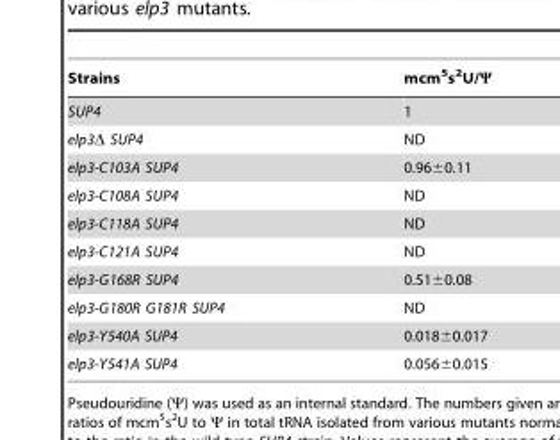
<table><thead><tr><td>Strains</td><td>mcm<sup>5</sup>s<sup>2</sup>U/Ψ</td></tr></thead><tbody><tr><td>SUP4</td><td>1</td></tr><tr><td>elp3Δ SUP4</td><td>ND</td></tr><tr><td>elp3-C103A SUP4</td><td>0.96±0.11</td></tr><tr><td>elp3-C108A SUP4</td><td>ND</td></tr><tr><td>elp3-C118A SUP4</td><td>ND</td></tr><tr><td>elp3-C121A SUP4</td><td>ND</td></tr><tr><td>elp3-G168R SUP4</td><td>0.51±0.08</td></tr><tr><td>elp3-G180R G181R SUP4</td><td>ND</td></tr><tr><td>elp3-Y540A SUP4</td><td>0.018±0.017</td></tr><tr><td>elp3-Y541A SUP4</td><td>0.056±0.015</td></tr></tbody></table>